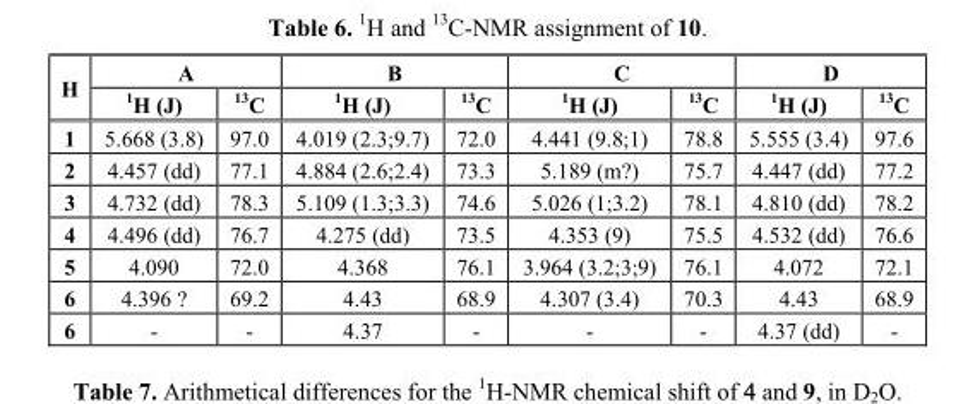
<table><thead><tr><td rowspan="2">H</td><td colspan="2">A</td><td colspan="2">B</td><td colspan="2">C</td><td colspan="2">D</td></tr><tr><td><sup>1</sup>H (J)</td><td><sup>13</sup>C</td><td><sup>1</sup>H (J)</td><td><sup>13</sup>C</td><td><sup>1</sup>H (J)</td><td><sup>13</sup>C</td><td><sup>1</sup>H (J)</td><td><sup>13</sup>C</td></tr></thead><tbody><tr><td>1</td><td>5.668 (3.8)</td><td>97.0</td><td>4.019 (2.3;9.7)</td><td>72.0</td><td>4.441 (9.8;1)</td><td>78.8</td><td>5.555 (3.4)</td><td>97.6</td></tr><tr><td>2</td><td>4.457 (dd)</td><td>77.1</td><td>4.884 (2.6;2.4)</td><td>73.3</td><td>5.189 (m?)</td><td>75.7</td><td>4.447 (dd)</td><td>77.2</td></tr><tr><td>3</td><td>4.732 (dd)</td><td>78.3</td><td>5.109 (1.3;3.3)</td><td>74.6</td><td>5.026 (1;3.2)</td><td>78.1</td><td>4.810 (dd)</td><td>78.2</td></tr><tr><td>4</td><td>4.496 (dd)</td><td>76.7</td><td>4.275 (dd)</td><td>73.5</td><td>4.353 (9)</td><td>75.5</td><td>4.532 (dd)</td><td>76.6</td></tr><tr><td>5</td><td>4.090</td><td>72.0</td><td>4.368</td><td>76.1</td><td>3.964 (3.2;3;9)</td><td>76.1</td><td>4.072</td><td>72.1</td></tr><tr><td>6</td><td>4.396 ?</td><td>69.2</td><td>4.43</td><td>68.9</td><td>4.307 (3.4)</td><td>70.3</td><td>4.43</td><td>68.9</td></tr><tr><td>6</td><td>-</td><td>-</td><td>4.37</td><td>-</td><td>-</td><td>-</td><td>4.37 (dd)</td><td>-</td></tr></tbody></table>